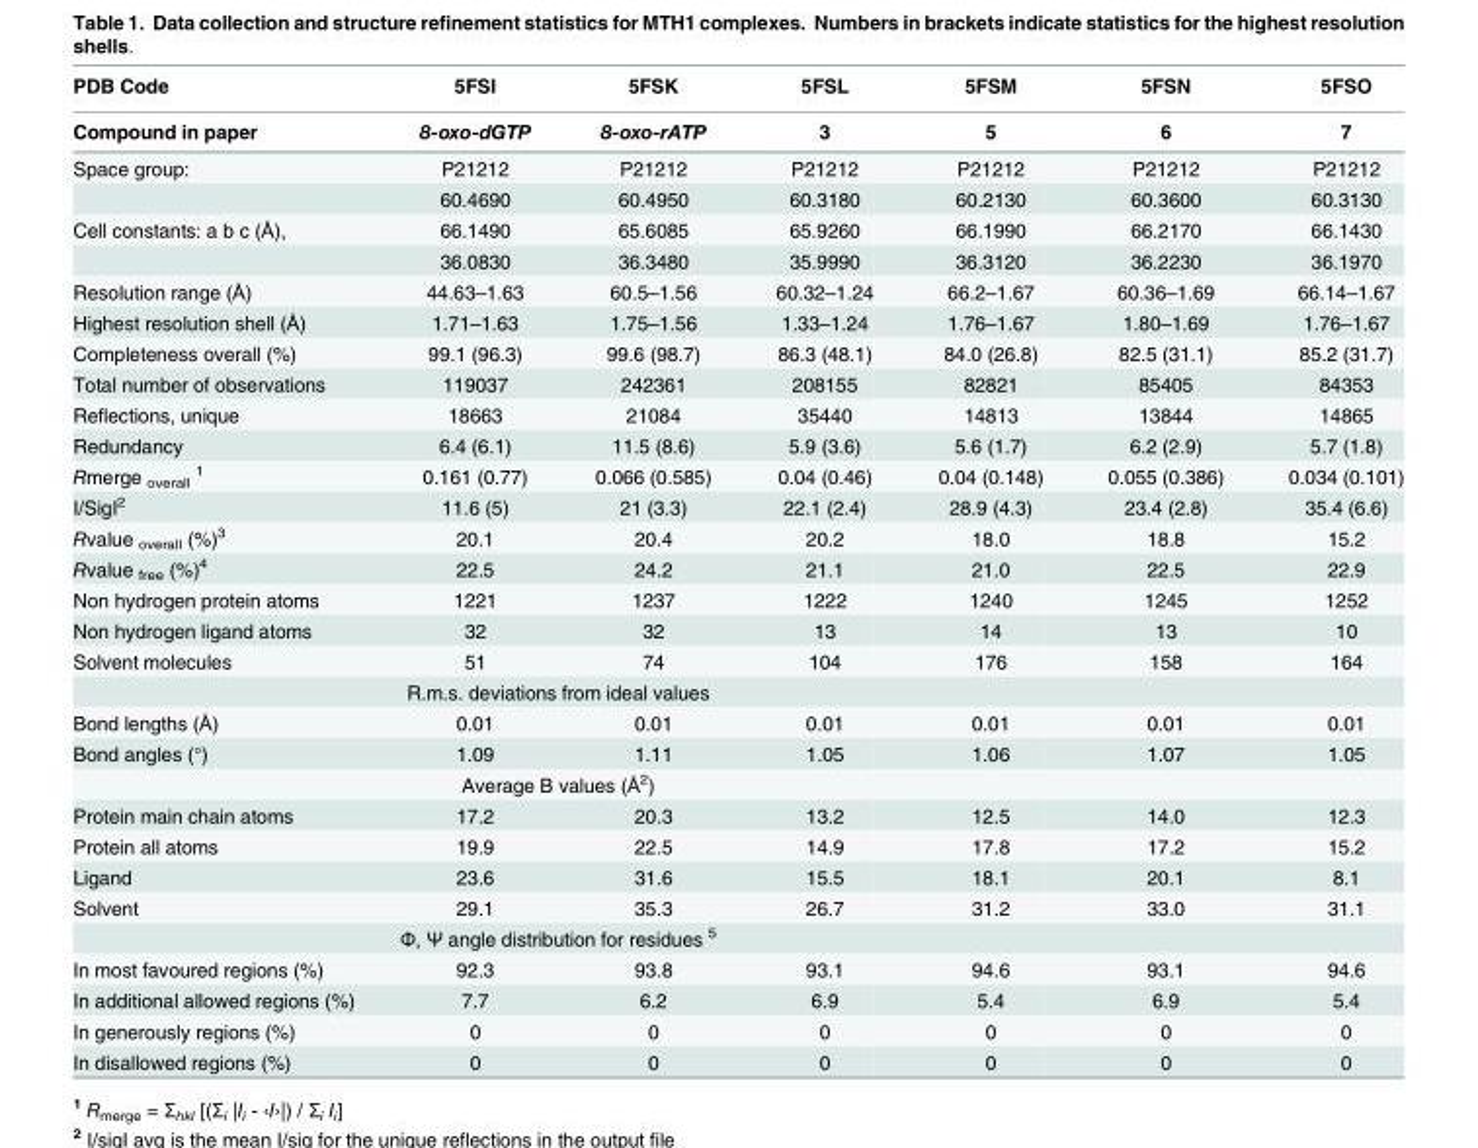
<table><thead><tr><td rowspan="2">PDB Code Compound in paper</td><td rowspan="2">5FSI 8-oxo-dGTP</td><td rowspan="2">5FSK 8-oxo-rATP</td><td rowspan="2">5FSL 3</td><td rowspan="2">5FSM 5</td><td rowspan="2">5FSN 6</td><td rowspan="2">5FSO 7</td></tr><tr></tr></thead><tbody><tr><td rowspan="2">Space group:</td><td>P21212</td><td>P21212</td><td>P21212</td><td>P21212</td><td>P21212</td><td>P21212</td></tr><tr><td>60.4690</td><td>60.4950</td><td>60.3180</td><td>60.2130</td><td>60.3600</td><td>60.3130</td></tr><tr><td rowspan="2">Cell constants: a b c (Å),</td><td>66.1490</td><td>65.6085</td><td>65.9260</td><td>66.1990</td><td>66.2170</td><td>66.1430</td></tr><tr><td>36.0830</td><td>36.3480</td><td>35.9990</td><td>36.3120</td><td>36.2230</td><td>36.1970</td></tr><tr><td>Resolution range (Å)</td><td>44.63–1.63</td><td>60.5–1.56</td><td>60.32–1.24</td><td>66.2–1.67</td><td>60.36–1.69</td><td>66.14–1.67</td></tr><tr><td>Highest resolution shell (Å)</td><td>1.71–1.63</td><td>1.75–1.56</td><td>1.33–1.24</td><td>1.76–1.67</td><td>1.80–1.69</td><td>1.76–1.67</td></tr><tr><td>Completeness overall (%)</td><td>99.1 (96.3)</td><td>99.6 (98.7)</td><td>86.3 (48.1)</td><td>84.0 (26.8)</td><td>82.5 (31.1)</td><td>85.2 (31.7)</td></tr><tr><td>Total number of observations</td><td>119037</td><td>242361</td><td>208155</td><td>82821</td><td>85405</td><td>84353</td></tr><tr><td>Reflections, unique</td><td>18663</td><td>21084</td><td>35440</td><td>14813</td><td>13844</td><td>14865</td></tr><tr><td>Redundancy</td><td>6.4 (6.1)</td><td>11.5 (8.6)</td><td>5.9 (3.6)</td><td>5.6 (1.7)</td><td>6.2 (2.9)</td><td>5.7 (1.8)</td></tr><tr><td>Rmerge <sub>overall</sub> <sup>1</sup></td><td>0.161 (0.77)</td><td>0.066 (0.585)</td><td>0.04 (0.46)</td><td>0.04 (0.148)</td><td>0.055 (0.386)</td><td>0.034 (0.101)</td></tr><tr><td>I/SigI<sup>2</sup></td><td>11.6 (5)</td><td>21 (3.3)</td><td>22.1 (2.4)</td><td>28.9 (4.3)</td><td>23.4 (2.8)</td><td>35.4 (6.6)</td></tr><tr><td>Rvalue <sub>overall</sub> (%)<sup>3</sup></td><td>20.1</td><td>20.4</td><td>20.2</td><td>18.0</td><td>18.8</td><td>15.2</td></tr><tr><td>Rvalue <sub>free</sub> (%)<sup>4</sup></td><td>22.5</td><td>24.2</td><td>21.1</td><td>21.0</td><td>22.5</td><td>22.9</td></tr><tr><td>Non hydrogen protein atoms</td><td>1221</td><td>1237</td><td>1222</td><td>1240</td><td>1245</td><td>1252</td></tr><tr><td>Non hydrogen ligand atoms</td><td>32</td><td>32</td><td>13</td><td>14</td><td>13</td><td>10</td></tr><tr><td>Solvent molecules</td><td>51</td><td>74</td><td>104</td><td>176</td><td>158</td><td>164</td></tr><tr><td colspan="7">R.m.s. deviations from ideal values</td></tr><tr><td>Bond lengths (Å)</td><td>0.01</td><td>0.01</td><td>0.01</td><td>0.01</td><td>0.01</td><td>0.01</td></tr><tr><td>Bond angles (°)</td><td>1.09</td><td>1.11</td><td>1.05</td><td>1.06</td><td>1.07</td><td>1.05</td></tr><tr><td colspan="7">Average B values (Å<sup>2</sup>)</td></tr><tr><td>Protein main chain atoms</td><td>17.2</td><td>20.3</td><td>13.2</td><td>12.5</td><td>14.0</td><td>12.3</td></tr><tr><td>Protein all atoms</td><td>19.9</td><td>22.5</td><td>14.9</td><td>17.8</td><td>17.2</td><td>15.2</td></tr><tr><td>Ligand</td><td>23.6</td><td>31.6</td><td>15.5</td><td>18.1</td><td>20.1</td><td>8.1</td></tr><tr><td>Solvent</td><td>29.1</td><td>35.3</td><td>26.7</td><td>31.2</td><td>33.0</td><td>31.1</td></tr><tr><td colspan="7">Φ, Ψ angle distribution for residues <sup>5</sup></td></tr><tr><td>In most favoured regions (%)</td><td>92.3</td><td>93.8</td><td>93.1</td><td>94.6</td><td>93.1</td><td>94.6</td></tr><tr><td>In additional allowed regions (%)</td><td>7.7</td><td>6.2</td><td>6.9</td><td>5.4</td><td>6.9</td><td>5.4</td></tr><tr><td>In generously regions (%)</td><td>0</td><td>0</td><td>0</td><td>0</td><td>0</td><td>0</td></tr><tr><td>In disallowed regions (%)</td><td>0</td><td>0</td><td>0</td><td>0</td><td>0</td><td>0</td></tr></tbody></table>